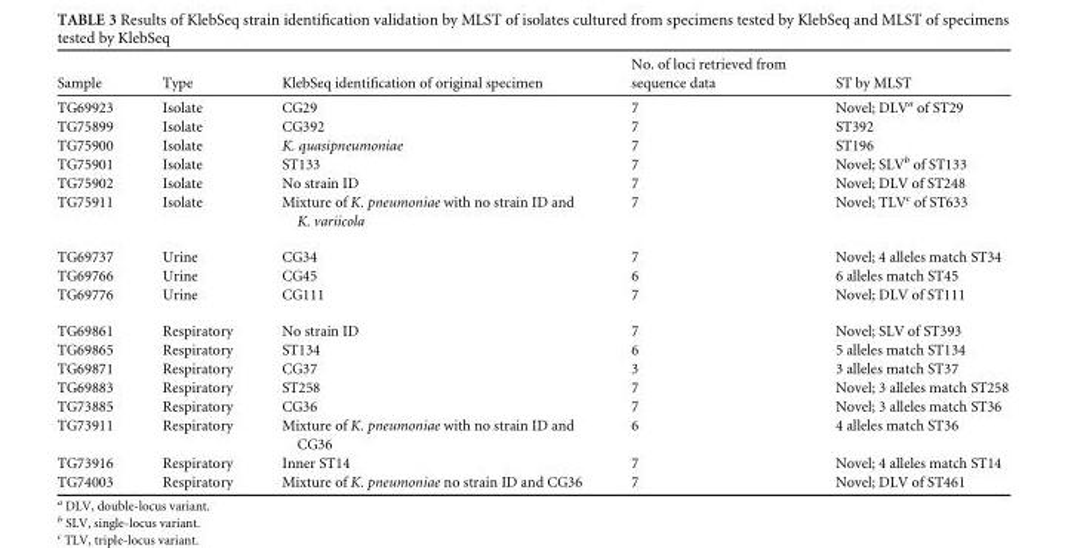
<table><thead><tr><td>Sample</td><td>Type</td><td>KlebSeq identification of original specimen</td><td>No. of loci retrieved from sequence data</td><td>ST by MLST</td></tr></thead><tbody><tr><td>TG69923</td><td>Isolate</td><td>CG29</td><td>7</td><td>Novel; DLV<sup>a</sup> of ST29</td></tr><tr><td>TG75899</td><td>Isolate</td><td>CG392</td><td>7</td><td>ST392</td></tr><tr><td>TG75900</td><td>Isolate</td><td>K. quasipneumoniae</td><td>7</td><td>ST196</td></tr><tr><td>TG75901</td><td>Isolate</td><td>ST133</td><td>7</td><td>Novel; SLV<sup>b</sup> of ST133</td></tr><tr><td>TG75902</td><td>Isolate</td><td>No strain ID</td><td>7</td><td>Novel; DLV of ST248</td></tr><tr><td>TG75911</td><td>Isolate</td><td>Mixture of K. pneumoniae with no strain ID and K. variicola</td><td>7</td><td>Novel; TLV<sup>c</sup> of ST633</td></tr><tr><td>TG69737</td><td>Urine</td><td>CG34</td><td>7</td><td>Novel; 4 alleles match ST34</td></tr><tr><td>TG69766</td><td>Urine</td><td>CG45</td><td>6</td><td>6 alleles match ST45</td></tr><tr><td>TG69776</td><td>Urine</td><td>CG111</td><td>7</td><td>Novel; DLV of ST111</td></tr><tr><td>TG69861</td><td>Respiratory</td><td>No strain ID</td><td>7</td><td>Novel; SLV of ST393</td></tr><tr><td>TG69865</td><td>Respiratory</td><td>ST134</td><td>6</td><td>5 alleles match ST134</td></tr><tr><td>TG69871</td><td>Respiratory</td><td>CG37</td><td>3</td><td>3 alleles match ST37</td></tr><tr><td>TG69883</td><td>Respiratory</td><td>ST258</td><td>7</td><td>Novel; 3 alleles match ST258</td></tr><tr><td>TG73885</td><td>Respiratory</td><td>CG36</td><td>7</td><td>Novel; 3 alleles match ST36</td></tr><tr><td>TG73911</td><td>Respiratory</td><td>Mixture of K. pneumoniae with no strain ID and CG36</td><td>6</td><td>4 alleles match ST36</td></tr><tr><td>TG73916</td><td>Respiratory</td><td>Inner ST14</td><td>7</td><td>Novel; 4 alleles match ST14</td></tr><tr><td>TG74003</td><td>Respiratory</td><td>Mixture of K. pneumoniae no strain ID and CG36</td><td>7</td><td>Novel; DLV of ST461</td></tr></tbody></table>